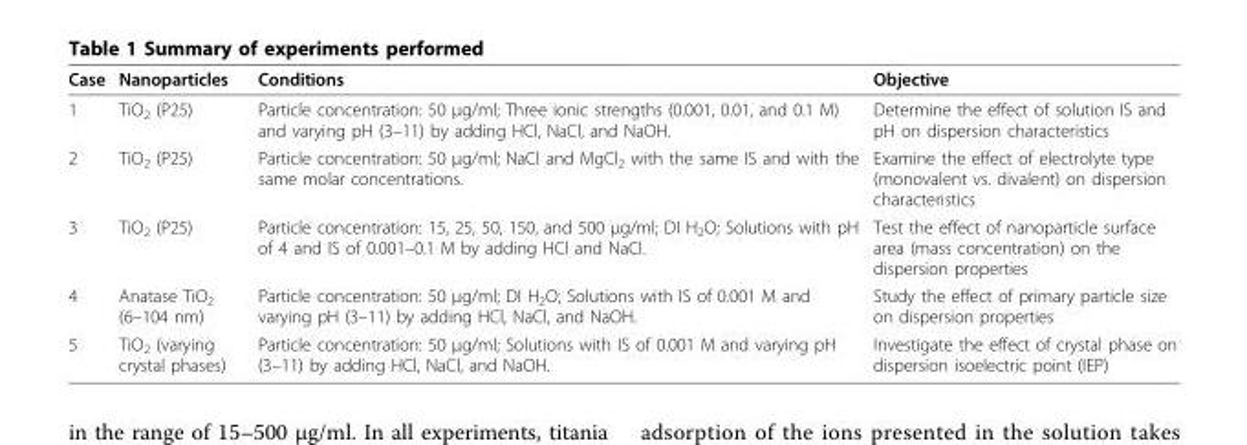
<table><thead><tr><td>Case</td><td>Nanoparticles</td><td>Conditions</td><td>Objective</td></tr></thead><tbody><tr><td>1</td><td>TiO<sub>2</sub> (P25)</td><td>Particle concentration: 50 μg/ml; Three ionic strengths (0.001, 0.01, and 0.1 M) and varying pH (3–11) by adding HCl, NaCl, and NaOH.</td><td>Determine the effect of solution IS and pH on dispersion characteristics</td></tr><tr><td>2</td><td>TiO<sub>2</sub> (P25)</td><td>Particle concentration: 50 μg/ml; NaCl and MgCl<sub>2</sub> with the same IS and with the same molar concentrations.</td><td>Examine the effect of electrolyte type (monovalent vs. divalent) on dispersion characteristics</td></tr><tr><td>3</td><td>TiO<sub>2</sub> (P25)</td><td>Particle concentration: 15, 25, 50, 150, and 500 μg/ml; DI H<sub>2</sub>O; Solutions with pH of 4 and IS of 0.001–0.1 M by adding HCl and NaCl.</td><td>Test the effect of nanoparticle surface area (mass concentration) on the dispersion properties</td></tr><tr><td>4</td><td>Anatase TiO<sub>2</sub> (6–104 nm)</td><td>Particle concentration: 50 μg/ml; DI H<sub>2</sub>O; Solutions with IS of 0.001 M and varying pH (3–11) by adding HCl, NaCl, and NaOH.</td><td>Study the effect of primary particle size on dispersion properties</td></tr><tr><td>5</td><td>TiO<sub>2</sub> (varying crystal phases)</td><td>Particle concentration: 50 μg/ml; Solutions with IS of 0.001 M and varying pH (3–11) by adding HCl, NaCl, and NaOH.</td><td>Investigate the effect of crystal phase on dispersion isoelectric point (IEP)</td></tr></tbody></table>